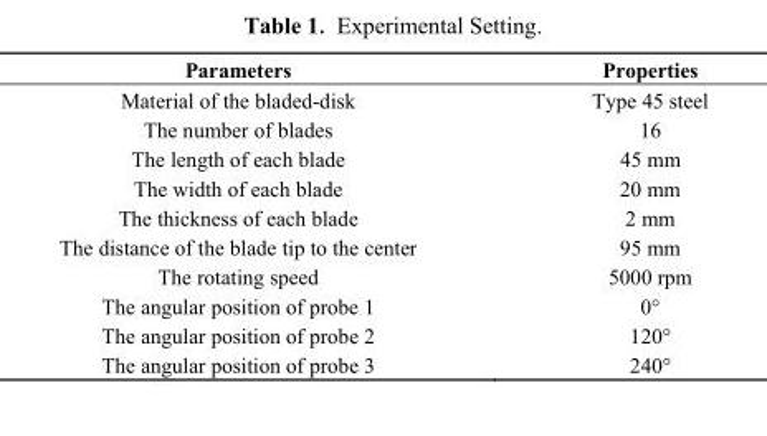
<table><thead><tr><td>Parameters</td><td>Properties</td></tr></thead><tbody><tr><td>Material of the bladed-disk</td><td>Type 45 steel</td></tr><tr><td>The number of blades</td><td>16</td></tr><tr><td>The length of each blade</td><td>45 mm</td></tr><tr><td>The width of each blade</td><td>20 mm</td></tr><tr><td>The thickness of each blade</td><td>2 mm</td></tr><tr><td>The distance of the blade tip to the center</td><td>95 mm</td></tr><tr><td>The rotating speed</td><td>5000 rpm</td></tr><tr><td>The angular position of probe 1</td><td>0°</td></tr><tr><td>The angular position of probe 2</td><td>120°</td></tr><tr><td>The angular position of probe 3</td><td>240°</td></tr></tbody></table>